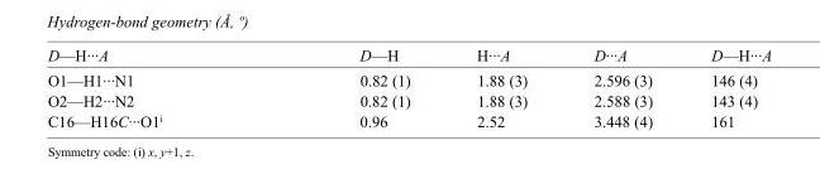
<table><tbody><tr><td>D—H···A</td><td>D—H</td><td>H···A</td><td>D···A</td><td>D—H···A</td></tr><tr><td>O1—H1···N1</td><td>0.82 (1)</td><td>1.88 (3)</td><td>2.596 (3)</td><td>146 (4)</td></tr><tr><td>O2—H2···N2</td><td>0.82 (1)</td><td>1.88 (3)</td><td>2.588 (3)</td><td>143 (4)</td></tr><tr><td>C16—H16C···O1<sup>i</sup></td><td>0.96</td><td>2.52</td><td>3.448 (4)</td><td>161</td></tr></tbody></table>